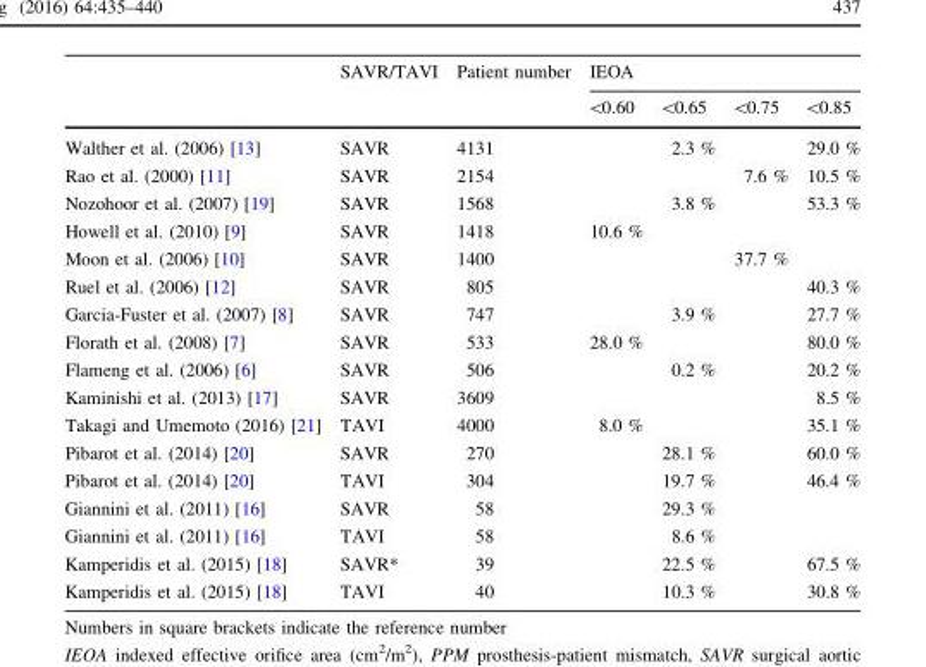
<table><thead><tr><td rowspan="2"></td><td rowspan="2">SAVR/TAVI</td><td rowspan="2">Patient number</td><td colspan="4">IEOA</td></tr><tr><td>&lt;0.60</td><td>&lt;0.65</td><td>&lt;0.75</td><td>&lt;0.85</td></tr></thead><tbody><tr><td>Walther et al. (2006) [13]</td><td>SAVR</td><td>4131</td><td></td><td>2.3 %</td><td></td><td>29.0 %</td></tr><tr><td>Rao et al. (2000) [11]</td><td>SAVR</td><td>2154</td><td></td><td></td><td>7.6 %</td><td>10.5 %</td></tr><tr><td>Nozohoor et al. (2007) [19]</td><td>SAVR</td><td>1568</td><td></td><td>3.8 %</td><td></td><td>53.3 %</td></tr><tr><td>Howell et al. (2010) [9]</td><td>SAVR</td><td>1418</td><td>10.6 %</td><td></td><td></td><td></td></tr><tr><td>Moon et al. (2006) [10]</td><td>SAVR</td><td>1400</td><td></td><td></td><td>37.7 %</td><td></td></tr><tr><td>Ruel et al. (2006) [12]</td><td>SAVR</td><td>805</td><td></td><td></td><td></td><td>40.3 %</td></tr><tr><td>Garcia-Fuster et al. (2007) [8]</td><td>SAVR</td><td>747</td><td></td><td>3.9 %</td><td></td><td>27.7 %</td></tr><tr><td>Florath et al. (2008) [7]</td><td>SAVR</td><td>533</td><td>28.0 %</td><td></td><td></td><td>80.0 %</td></tr><tr><td>Flameng et al. (2006) [6]</td><td>SAVR</td><td>506</td><td></td><td>0.2 %</td><td></td><td>20.2 %</td></tr><tr><td>Kaminishi et al. (2013) [17]</td><td>SAVR</td><td>3609</td><td></td><td></td><td></td><td>8.5 %</td></tr><tr><td>Takagi and Umemoto (2016) [21]</td><td>TAVI</td><td>4000</td><td>8.0 %</td><td></td><td></td><td>35.1 %</td></tr><tr><td>Pibarot et al. (2014) [20]</td><td>SAVR</td><td>270</td><td></td><td>28.1 %</td><td></td><td>60.0 %</td></tr><tr><td>Pibarot et al. (2014) [20]</td><td>TAVI</td><td>304</td><td></td><td>19.7 %</td><td></td><td>46.4 %</td></tr><tr><td>Giannini et al. (2011) [16]</td><td>SAVR</td><td>58</td><td></td><td>29.3 %</td><td></td><td></td></tr><tr><td>Giannini et al. (2011) [16]</td><td>TAVI</td><td>58</td><td></td><td>8.6 %</td><td></td><td></td></tr><tr><td>Kamperidis et al. (2015) [18]</td><td>SAVR*</td><td>39</td><td></td><td>22.5 %</td><td></td><td>67.5 %</td></tr><tr><td>Kamperidis et al. (2015) [18]</td><td>TAVI</td><td>40</td><td></td><td>10.3 %</td><td></td><td>30.8 %</td></tr></tbody></table>